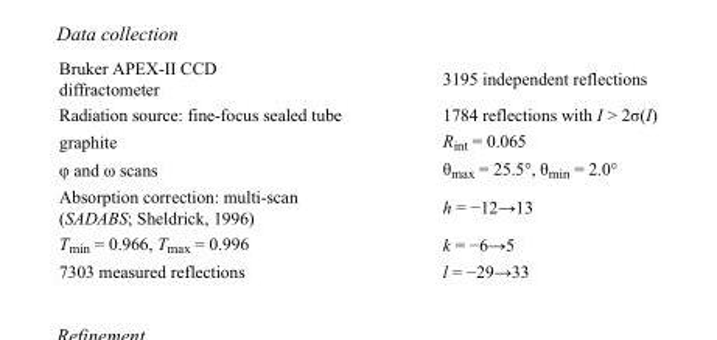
<table><tbody><tr><td>Bruker APEX-II CCD diffractometer</td><td>3195 independent reflections</td></tr><tr><td>Radiation source: fine-focus sealed tube</td><td>1784 reflections with I &gt; 2σ(I)</td></tr><tr><td>graphite</td><td>R<sub>int</sub> = 0.065</td></tr><tr><td>φ and ω scans</td><td>θ<sub>max</sub> = 25.5°, θ<sub>min</sub> = 2.0°</td></tr><tr><td>Absorption correction: multi-scan (SADABS; Sheldrick, 1996)</td><td>h = −12→13</td></tr><tr><td>T<sub>min</sub> = 0.966, T<sub>max</sub> = 0.996</td><td>k = −6→5</td></tr><tr><td>7303 measured reflections</td><td>l = −29→33</td></tr></tbody></table>